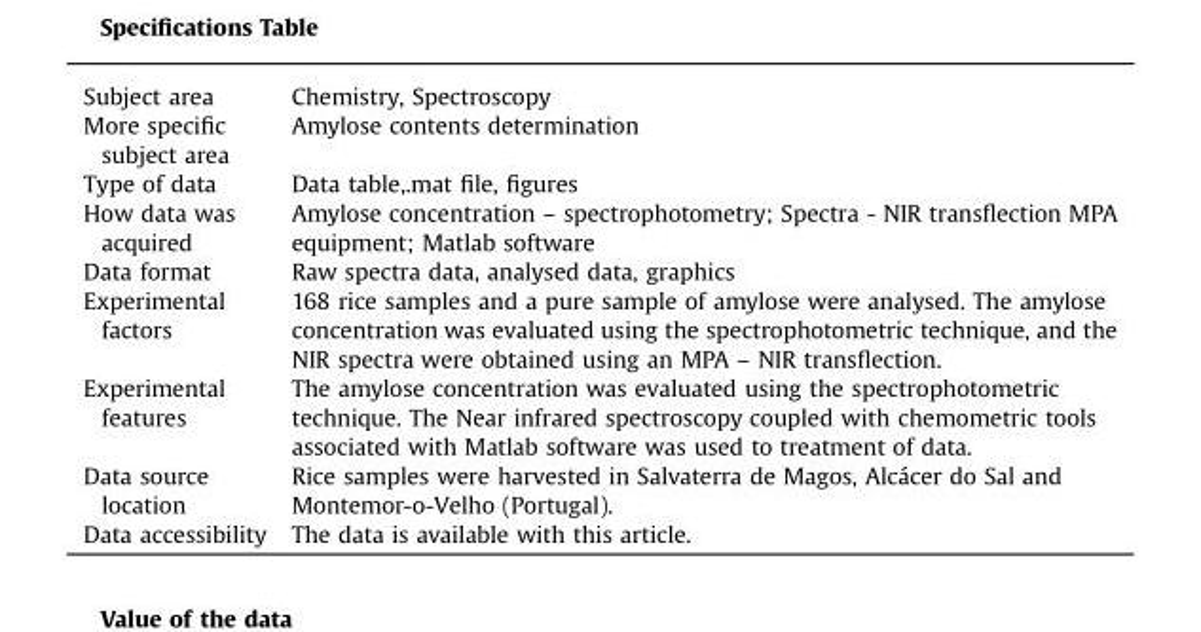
<table><tbody><tr><td>Subject area</td><td>Chemistry, Spectroscopy</td></tr><tr><td>More specific subject area</td><td>Amylose contents determination</td></tr><tr><td>Type of data</td><td>Data table,.mat file, figures</td></tr><tr><td>How data was acquired</td><td>Amylose concentration – spectrophotometry; Spectra - NIR transflection MPA equipment; Matlab software</td></tr><tr><td>Data format</td><td>Raw spectra data, analysed data, graphics</td></tr><tr><td>Experimental factors</td><td>168 rice samples and a pure sample of amylose were analysed. The amylose concentration was evaluated using the spectrophotometric technique, and the NIR spectra were obtained using an MPA – NIR transflection.</td></tr><tr><td>Experimental features</td><td>The amylose concentration was evaluated using the spectrophotometric technique. The Near infrared spectroscopy coupled with chemometric tools associated with Matlab software was used to treatment of data.</td></tr><tr><td>Data source location</td><td>Rice samples were harvested in Salvaterra de Magos, Alcácer do Sal and Montemor-o-Velho (Portugal).</td></tr><tr><td>Data accessibility</td><td>The data is available with this article.</td></tr></tbody></table>